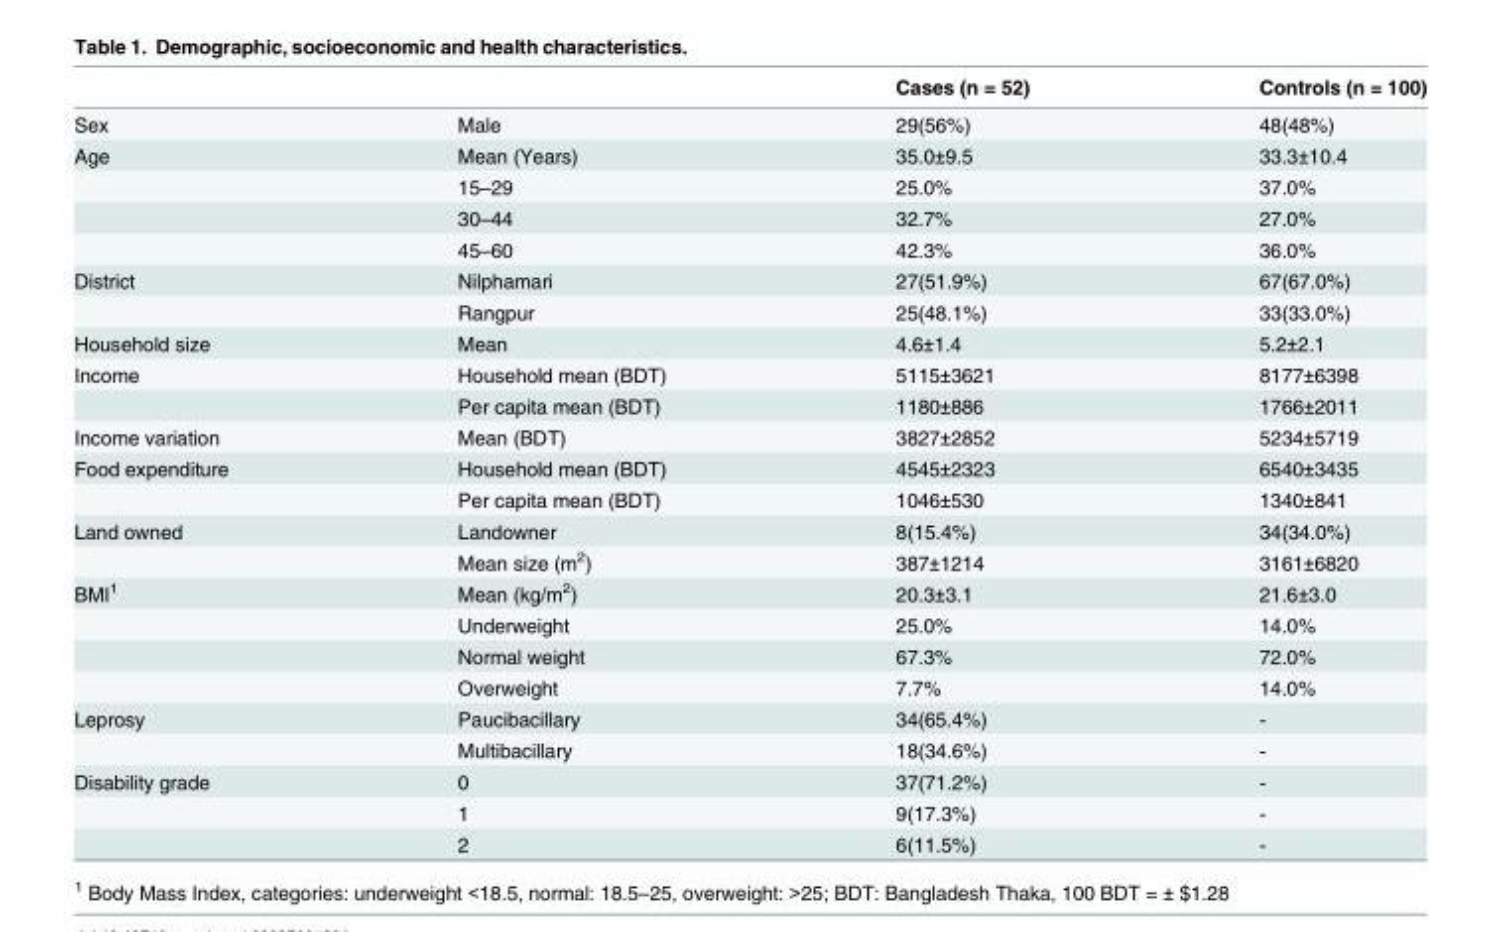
<table><thead><tr><td></td><td></td><td>Cases (n = 52)</td><td>Controls (n = 100)</td></tr></thead><tbody><tr><td>Sex</td><td>Male</td><td>29(56%)</td><td>48(48%)</td></tr><tr><td rowspan="4">Age</td><td>Mean (Years)</td><td>35.0±9.5</td><td>33.3±10.4</td></tr><tr><td>15–29</td><td>25.0%</td><td>37.0%</td></tr><tr><td>30–44</td><td>32.7%</td><td>27.0%</td></tr><tr><td>45–60</td><td>42.3%</td><td>36.0%</td></tr><tr><td rowspan="2">District</td><td>Nilphamari</td><td>27(51.9%)</td><td>67(67.0%)</td></tr><tr><td>Rangpur</td><td>25(48.1%)</td><td>33(33.0%)</td></tr><tr><td>Household size</td><td>Mean</td><td>4.6±1.4</td><td>5.2±2.1</td></tr><tr><td rowspan="2">Income</td><td>Household mean (BDT)</td><td>5115±3621</td><td>8177±6398</td></tr><tr><td>Per capita mean (BDT)</td><td>1180±886</td><td>1766±2011</td></tr><tr><td>Income variation</td><td>Mean (BDT)</td><td>3827±2852</td><td>5234±5719</td></tr><tr><td rowspan="2">Food expenditure</td><td>Household mean (BDT)</td><td>4545±2323</td><td>6540±3435</td></tr><tr><td>Per capita mean (BDT)</td><td>1046±530</td><td>1340±841</td></tr><tr><td rowspan="2">Land owned</td><td>Landowner</td><td>8(15.4%)</td><td>34(34.0%)</td></tr><tr><td>Mean size (m<sup>2</sup>)</td><td>387±1214</td><td>3161±6820</td></tr><tr><td rowspan="4">BMI<sup>1</sup></td><td>Mean (kg/m<sup>2</sup>)</td><td>20.3±3.1</td><td>21.6±3.0</td></tr><tr><td>Underweight</td><td>25.0%</td><td>14.0%</td></tr><tr><td>Normal weight</td><td>67.3%</td><td>72.0%</td></tr><tr><td>Overweight</td><td>7.7%</td><td>14.0%</td></tr><tr><td rowspan="2">Leprosy</td><td>Paucibacillary</td><td>34(65.4%)</td><td>-</td></tr><tr><td>Multibacillary</td><td>18(34.6%)</td><td>-</td></tr><tr><td rowspan="3">Disability grade</td><td>0</td><td>37(71.2%)</td><td>-</td></tr><tr><td>1</td><td>9(17.3%)</td><td>-</td></tr><tr><td>2</td><td>6(11.5%)</td><td>-</td></tr></tbody></table>